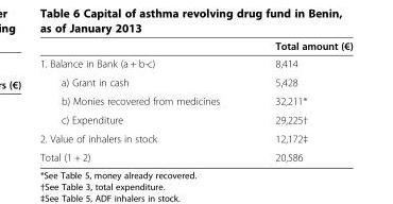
<table><thead><tr><td></td><td>Total amount (€)</td></tr></thead><tbody><tr><td>1. Balance in Bank (a + b-c)</td><td>8,414</td></tr><tr><td>a) Grant in cash</td><td>5,428</td></tr><tr><td>b) Monies recovered from medicines</td><td>32,211*</td></tr><tr><td>c) Expenditure</td><td>29,225†</td></tr><tr><td>2. Value of inhalers in stock</td><td>12,172‡</td></tr><tr><td>Total (1 + 2)</td><td>20,586</td></tr></tbody></table>